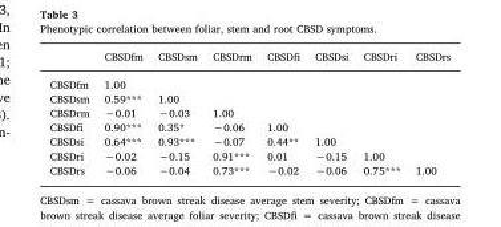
<table><thead><tr><td></td><td>CBSDfm</td><td>CBSDsm</td><td>CBSDrm</td><td>CBSDfi</td><td>CBSDsi</td><td>CBSDri</td><td>CBSDrs</td></tr></thead><tbody><tr><td>CBSDfm</td><td>1.00</td><td></td><td></td><td></td><td></td><td></td><td></td></tr><tr><td>CBSDsm</td><td>0.59***</td><td>1.00</td><td></td><td></td><td></td><td></td><td></td></tr><tr><td>CBSDrm</td><td>−0.01</td><td>−0.03</td><td>1.00</td><td></td><td></td><td></td><td></td></tr><tr><td>CBSDfi</td><td>0.90***</td><td>0.35*</td><td>−0.06</td><td>1.00</td><td></td><td></td><td></td></tr><tr><td>CBSDsi</td><td>0.64***</td><td>0.93***</td><td>−0.07</td><td>0.44**</td><td>1.00</td><td></td><td></td></tr><tr><td>CBSDri</td><td>−0.02</td><td>−0.15</td><td>0.91***</td><td>0.01</td><td>−0.15</td><td>1.00</td><td></td></tr><tr><td>CBSDrs</td><td>−0.06</td><td>−0.04</td><td>0.73***</td><td>−0.02</td><td>−0.06</td><td>0.75***</td><td>1.00</td></tr></tbody></table>